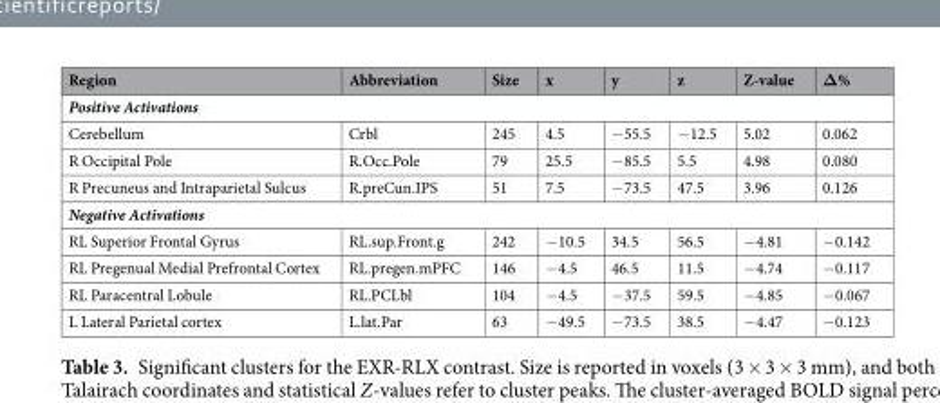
<table><thead><tr><td>Region</td><td>Abbreviation</td><td>Size</td><td>x</td><td>y</td><td>z</td><td>Z-value</td><td>Δ%</td></tr></thead><tbody><tr><td colspan="8">Positive Activations</td></tr><tr><td>Cerebellum</td><td>Crbl</td><td>245</td><td>4.5</td><td>−55.5</td><td>−12.5</td><td>5.02</td><td>0.062</td></tr><tr><td>R Occipital Pole</td><td>R.Occ.Pole</td><td>79</td><td>25.5</td><td>−85.5</td><td>5.5</td><td>4.98</td><td>0.080</td></tr><tr><td>R Precuneus and Intraparietal Sulcus</td><td>R.preCun.IPS</td><td>51</td><td>7.5</td><td>−73.5</td><td>47.5</td><td>3.96</td><td>0.126</td></tr><tr><td colspan="8">Negative Activations</td></tr><tr><td>RL Superior Frontal Gyrus</td><td>RL.sup.Front.g</td><td>242</td><td>−10.5</td><td>34.5</td><td>56.5</td><td>−4.81</td><td>−0.142</td></tr><tr><td>RL Pregenual Medial Prefrontal Cortex</td><td>RL.pregen.mPFC</td><td>146</td><td>−4.5</td><td>46.5</td><td>11.5</td><td>−4.74</td><td>−0.117</td></tr><tr><td>RL Paracentral Lobule</td><td>RL.PCLbl</td><td>104</td><td>−4.5</td><td>−37.5</td><td>59.5</td><td>−4.85</td><td>−0.067</td></tr><tr><td>L Lateral Parietal cortex</td><td>L.lat.Par</td><td>63</td><td>−49.5</td><td>−73.5</td><td>38.5</td><td>−4.47</td><td>−0.123</td></tr></tbody></table>